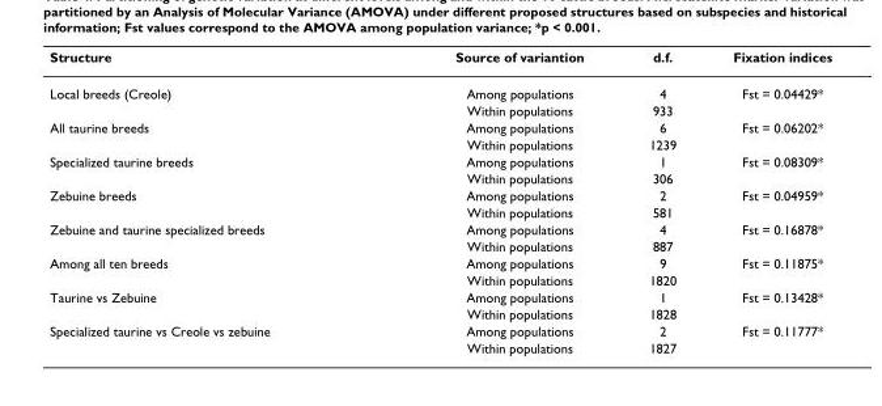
<table><thead><tr><td>Structure</td><td>Source of variantion</td><td>d.f.</td><td>Fixation indices</td></tr></thead><tbody><tr><td rowspan="2">Local breeds (Creole)</td><td>Among populations</td><td>4</td><td>Fst = 0.04429*</td></tr><tr><td>Within populations</td><td>933</td><td></td></tr><tr><td rowspan="2">All taurine breeds</td><td>Among populations</td><td>6</td><td>Fst = 0.06202*</td></tr><tr><td>Within populations</td><td>1239</td><td></td></tr><tr><td rowspan="2">Specialized taurine breeds</td><td>Among populations</td><td>1</td><td>Fst = 0.08309*</td></tr><tr><td>Within populations</td><td>306</td><td></td></tr><tr><td rowspan="2">Zebuine breeds</td><td>Among populations</td><td>2</td><td>Fst = 0.04959*</td></tr><tr><td>Within populations</td><td>581</td><td></td></tr><tr><td rowspan="2">Zebuine and taurine specialized breeds</td><td>Among populations</td><td>4</td><td>Fst = 0.16878*</td></tr><tr><td>Within populations</td><td>887</td><td></td></tr><tr><td rowspan="2">Among all ten breeds</td><td>Among populations</td><td>9</td><td>Fst = 0.11875*</td></tr><tr><td>Within populations</td><td>1820</td><td></td></tr><tr><td rowspan="2">Taurine vs Zebuine</td><td>Among populations</td><td>1</td><td>Fst = 0.13428*</td></tr><tr><td>Within populations</td><td>1828</td><td></td></tr><tr><td rowspan="2">Specialized taurine vs Creole vs zebuine</td><td>Among populations</td><td>2</td><td>Fst = 0.11777*</td></tr><tr><td>Within populations</td><td>1827</td><td></td></tr></tbody></table>